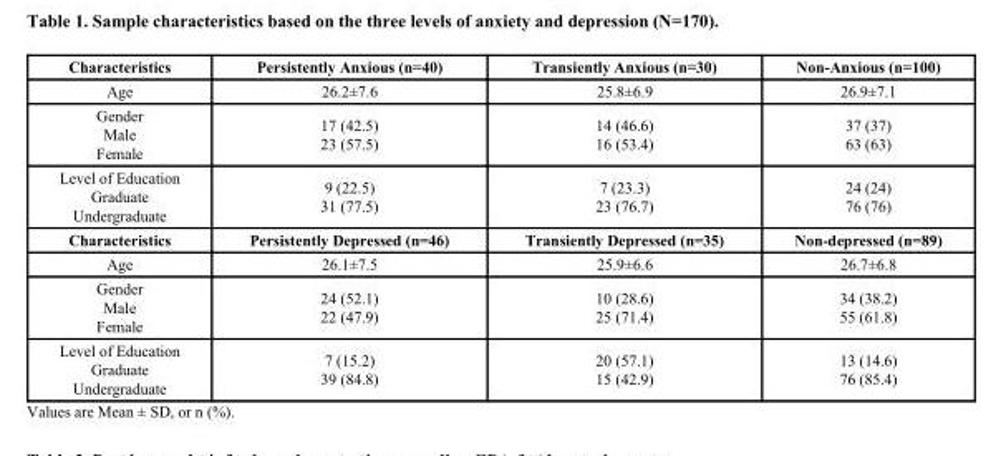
<table><thead><tr><td>Characteristics</td><td>Persistently Anxious (n=40)</td><td>Transiently Anxious (n=30)</td><td>Non-Anxious (n=100)</td></tr></thead><tbody><tr><td>Age</td><td>26.2±7.6</td><td>25.8±6.9</td><td>26.9±7.1</td></tr><tr><td>Gender Male Female</td><td>17 (42.5) 23 (57.5)</td><td>14 (46.6) 16 (53.4)</td><td>37 (37) 63 (63)</td></tr><tr><td>Level of Education Graduate Undergraduate</td><td>9 (22.5) 31 (77.5)</td><td>7 (23.3) 23 (76.7)</td><td>24 (24) 76 (76)</td></tr><tr><td>Characteristics</td><td>Persistently Depressed (n=46)</td><td>Transiently Depressed (n=35)</td><td>Non-depressed (n=89)</td></tr><tr><td>Age</td><td>26.1±7.5</td><td>25.9±6.6</td><td>26.7±6.8</td></tr><tr><td>Gender Male Female</td><td>24 (52.1) 22 (47.9)</td><td>10 (28.6) 25 (71.4)</td><td>34 (38.2) 55 (61.8)</td></tr><tr><td>Level of Education Graduate Undergraduate</td><td>7 (15.2) 39 (84.8)</td><td>20 (57.1) 15 (42.9)</td><td>13 (14.6) 76 (85.4)</td></tr></tbody></table>